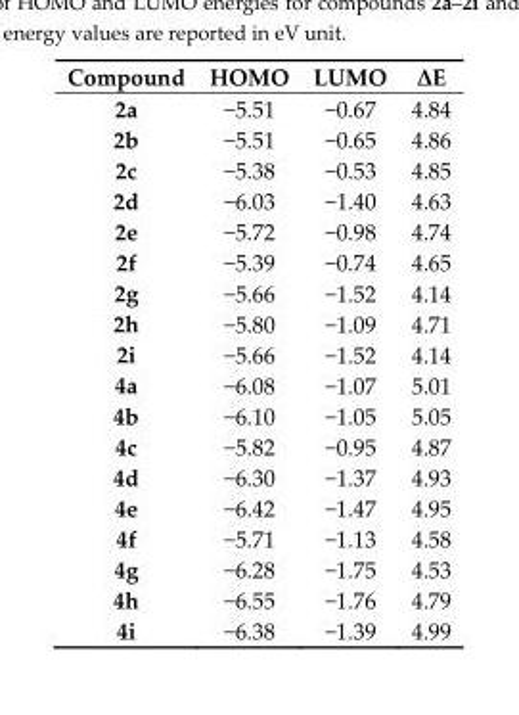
<table><thead><tr><td>Compound</td><td>HOMO</td><td>LUMO</td><td>ΔE</td></tr></thead><tbody><tr><td>2a</td><td>−5.51</td><td>−0.67</td><td>4.84</td></tr><tr><td>2b</td><td>−5.51</td><td>−0.65</td><td>4.86</td></tr><tr><td>2c</td><td>−5.38</td><td>−0.53</td><td>4.85</td></tr><tr><td>2d</td><td>−6.03</td><td>−1.40</td><td>4.63</td></tr><tr><td>2e</td><td>−5.72</td><td>−0.98</td><td>4.74</td></tr><tr><td>2f</td><td>−5.39</td><td>−0.74</td><td>4.65</td></tr><tr><td>2g</td><td>−5.66</td><td>−1.52</td><td>4.14</td></tr><tr><td>2h</td><td>−5.80</td><td>−1.09</td><td>4.71</td></tr><tr><td>2i</td><td>−5.66</td><td>−1.52</td><td>4.14</td></tr><tr><td>4a</td><td>−6.08</td><td>−1.07</td><td>5.01</td></tr><tr><td>4b</td><td>−6.10</td><td>−1.05</td><td>5.05</td></tr><tr><td>4c</td><td>−5.82</td><td>−0.95</td><td>4.87</td></tr><tr><td>4d</td><td>−6.30</td><td>−1.37</td><td>4.93</td></tr><tr><td>4e</td><td>−6.42</td><td>−1.47</td><td>4.95</td></tr><tr><td>4f</td><td>−5.71</td><td>−1.13</td><td>4.58</td></tr><tr><td>4g</td><td>−6.28</td><td>−1.75</td><td>4.53</td></tr><tr><td>4h</td><td>−6.55</td><td>−1.76</td><td>4.79</td></tr><tr><td>4i</td><td>−6.38</td><td>−1.39</td><td>4.99</td></tr></tbody></table>